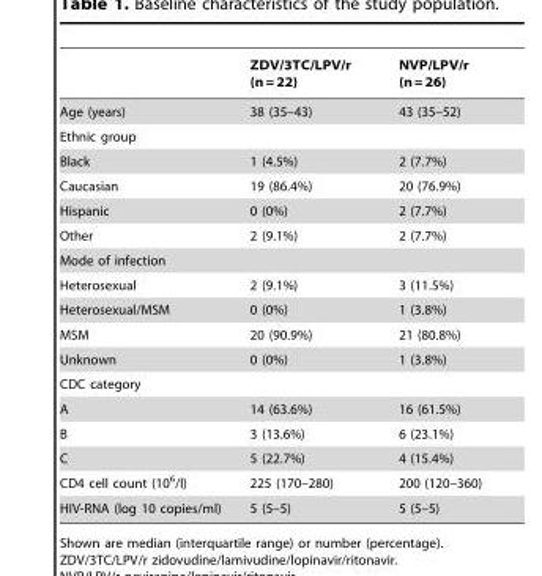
<table><thead><tr><td></td><td>ZDV/3TC/LPV/r (n = 22)</td><td>NVP/LPV/r (n = 26)</td></tr></thead><tbody><tr><td>Age (years)</td><td>38 (35–43)</td><td>43 (35–52)</td></tr><tr><td colspan="3">Ethnic group</td></tr><tr><td>Black</td><td>1 (4.5%)</td><td>2 (7.7%)</td></tr><tr><td>Caucasian</td><td>19 (86.4%)</td><td>20 (76.9%)</td></tr><tr><td>Hispanic</td><td>0 (0%)</td><td>2 (7.7%)</td></tr><tr><td>Other</td><td>2 (9.1%)</td><td>2 (7.7%)</td></tr><tr><td colspan="3">Mode of infection</td></tr><tr><td>Heterosexual</td><td>2 (9.1%)</td><td>3 (11.5%)</td></tr><tr><td>Heterosexual/MSM</td><td>0 (0%)</td><td>1 (3.8%)</td></tr><tr><td>MSM</td><td>20 (90.9%)</td><td>21 (80.8%)</td></tr><tr><td>Unknown</td><td>0 (0%)</td><td>1 (3.8%)</td></tr><tr><td colspan="3">CDC category</td></tr><tr><td>A</td><td>14 (63.6%)</td><td>16 (61.5%)</td></tr><tr><td>B</td><td>3 (13.6%)</td><td>6 (23.1%)</td></tr><tr><td>C</td><td>5 (22.7%)</td><td>4 (15.4%)</td></tr><tr><td>CD4 cell count (10<sup>6</sup>/l)</td><td>225 (170–280)</td><td>200 (120–360)</td></tr><tr><td>HIV-RNA (log 10 copies/ml)</td><td>5 (5–5)</td><td>5 (5–5)</td></tr></tbody></table>